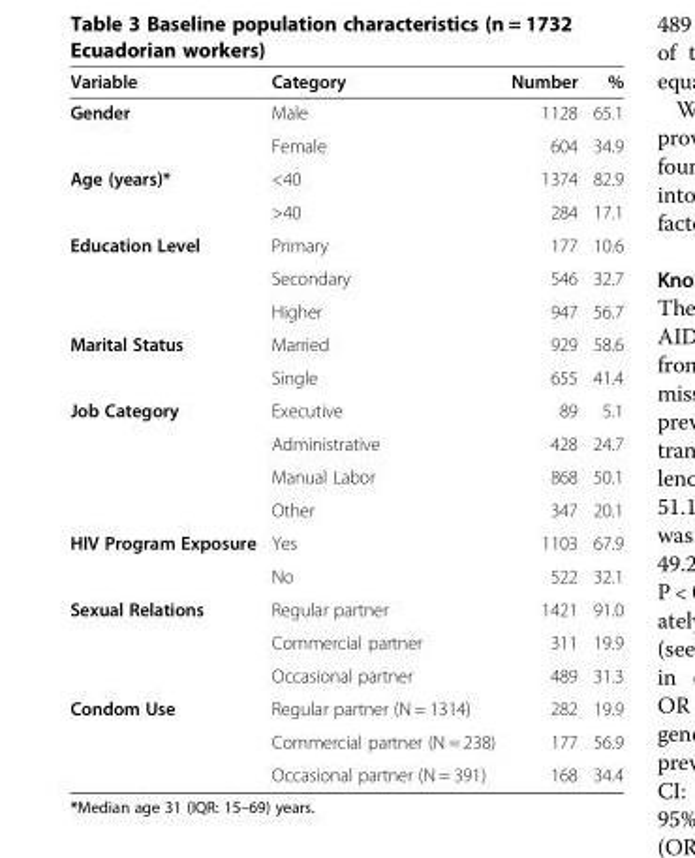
<table><thead><tr><td>Variable</td><td>Category</td><td>Number</td><td>%</td></tr></thead><tbody><tr><td rowspan="2">Gender</td><td>Male</td><td>1128</td><td>65.1</td></tr><tr><td>Female</td><td>604</td><td>34.9</td></tr><tr><td rowspan="2">Age (years)*</td><td>&lt;40</td><td>1374</td><td>82.9</td></tr><tr><td>&gt;40</td><td>284</td><td>17.1</td></tr><tr><td rowspan="3">Education Level</td><td>Primary</td><td>177</td><td>10.6</td></tr><tr><td>Secondary</td><td>546</td><td>32.7</td></tr><tr><td>Higher</td><td>947</td><td>56.7</td></tr><tr><td rowspan="2">Marital Status</td><td>Married</td><td>929</td><td>58.6</td></tr><tr><td>Single</td><td>655</td><td>41.4</td></tr><tr><td rowspan="4">Job Category</td><td>Executive</td><td>89</td><td>5.1</td></tr><tr><td>Administrative</td><td>428</td><td>24.7</td></tr><tr><td>Manual Labor</td><td>868</td><td>50.1</td></tr><tr><td>Other</td><td>347</td><td>20.1</td></tr><tr><td rowspan="2">HIV Program Exposure</td><td>Yes</td><td>1103</td><td>67.9</td></tr><tr><td>No</td><td>522</td><td>32.1</td></tr><tr><td rowspan="3">Sexual Relations</td><td>Regular partner</td><td>1421</td><td>91.0</td></tr><tr><td>Commercial partner</td><td>311</td><td>19.9</td></tr><tr><td>Occasional partner</td><td>489</td><td>31.3</td></tr><tr><td rowspan="3">Condom Use</td><td>Regular partner (N = 1314)</td><td>282</td><td>19.9</td></tr><tr><td>Commercial partner (N = 238)</td><td>177</td><td>56.9</td></tr><tr><td>Occasional partner (N = 391)</td><td>168</td><td>34.4</td></tr></tbody></table>